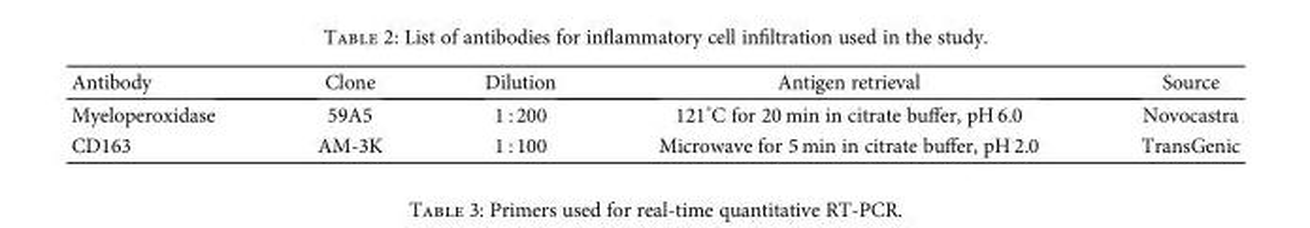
<table><thead><tr><td>Antibody</td><td>Clone</td><td>Dilution</td><td>Antigen retrieval</td><td>Source</td></tr></thead><tbody><tr><td>Myeloperoxidase</td><td>59A5</td><td>1 : 200</td><td>121°C for 20 min in citrate buffer, pH 6.0</td><td>Novocastra</td></tr><tr><td>CD163</td><td>AM-3K</td><td>1 : 100</td><td>Microwave for 5 min in citrate buffer, pH 2.0</td><td>TransGenic</td></tr></tbody></table>